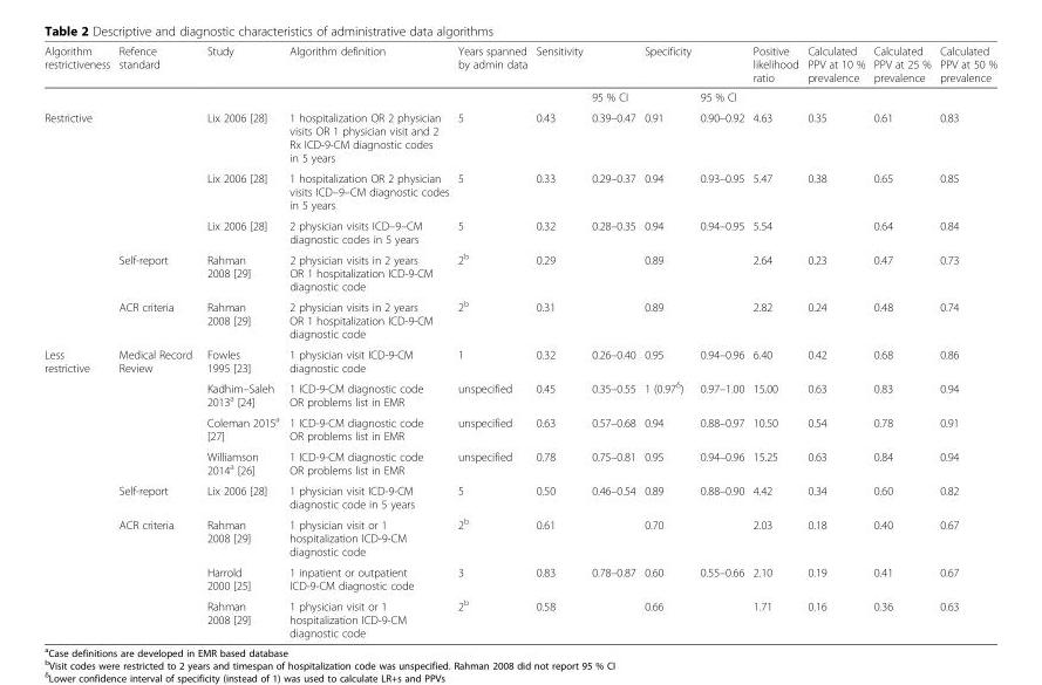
<table><thead><tr><td>Algorithm restrictiveness</td><td>Refence standard</td><td>Study</td><td>Algorithm definition</td><td>Years spanned by admin data</td><td>Sensitivity</td><td></td><td>Specificity</td><td></td><td>Positive likelihood ratio</td><td>Calculated PPV at 10 % prevalence</td><td>Calculated PPV at 25 % prevalence</td><td>Calculated PPV at 50 % prevalence</td></tr></thead><tbody><tr><td></td><td></td><td></td><td></td><td></td><td></td><td>95 % CI</td><td></td><td>95 % CI</td><td></td><td></td><td></td><td></td></tr><tr><td rowspan="5">Restrictive</td><td></td><td>Lix 2006 [28]</td><td>1 hospitalization OR 2 physician visits OR 1 physician visit and 2 Rx ICD-9-CM diagnostic codes in 5 years</td><td>5</td><td>0.43</td><td>0.39–0.47</td><td>0.91</td><td>0.90–0.92</td><td>4.63</td><td>0.35</td><td>0.61</td><td>0.83</td></tr><tr><td></td><td>Lix 2006 [28]</td><td>1 hospitalization OR 2 physician visits ICD–9–CM diagnostic codes in 5 years</td><td>5</td><td>0.33</td><td>0.29–0.37</td><td>0.94</td><td>0.93–0.95</td><td>5.47</td><td>0.38</td><td>0.65</td><td>0.85</td></tr><tr><td></td><td>Lix 2006 [28]</td><td>2 physician visits ICD–9–CM diagnostic codes in 5 years</td><td>5</td><td>0.32</td><td>0.28–0.35</td><td>0.94</td><td>0.94–0.95</td><td>5.54</td><td></td><td>0.64</td><td>0.84</td></tr><tr><td>Self-report</td><td>Rahman 2008 [29]</td><td>2 physician visits in 2 years OR 1 hospitalization ICD-9-CM diagnostic code</td><td>2<sup>b</sup></td><td>0.29</td><td></td><td>0.89</td><td></td><td>2.64</td><td>0.23</td><td>0.47</td><td>0.73</td></tr><tr><td>ACR criteria</td><td>Rahman 2008 [29]</td><td>2 physician visits in 2 years OR 1 hospitalization ICD-9-CM diagnostic code</td><td>2<sup>b</sup></td><td>0.31</td><td></td><td>0.89</td><td></td><td>2.82</td><td>0.24</td><td>0.48</td><td>0.74</td></tr><tr><td rowspan="8">Less restrictive</td><td rowspan="4">Medical Record Review</td><td>Fowles 1995 [23]</td><td>1 physician visit ICD-9-CM diagnostic code</td><td>1</td><td>0.32</td><td>0.26–0.40</td><td>0.95</td><td>0.94–0.96</td><td>6.40</td><td>0.42</td><td>0.68</td><td>0.86</td></tr><tr><td>Kadhim–Saleh 2013<sup>a</sup> [24]</td><td>1 ICD-9-CM diagnostic code OR problems list in EMR</td><td>unspecified</td><td>0.45</td><td>0.35–0.55</td><td>1 (0.97<sup>δ</sup>)</td><td>0.97–1.00</td><td>15.00</td><td>0.63</td><td>0.83</td><td>0.94</td></tr><tr><td>Coleman 2015<sup>a</sup> [27]</td><td>1 ICD-9-CM diagnostic code OR problems list in EMR</td><td>unspecified</td><td>0.63</td><td>0.57–0.68</td><td>0.94</td><td>0.88–0.97</td><td>10.50</td><td>0.54</td><td>0.78</td><td>0.91</td></tr><tr><td>Williamson 2014<sup>a</sup> [26]</td><td>1 ICD-9-CM diagnostic code OR problems list in EMR</td><td>unspecified</td><td>0.78</td><td>0.75–0.81</td><td>0.95</td><td>0.94–0.96</td><td>15.25</td><td>0.63</td><td>0.84</td><td>0.94</td></tr><tr><td>Self-report</td><td>Lix 2006 [28]</td><td>1 physician visit ICD-9-CM diagnostic code in 5 years</td><td>5</td><td>0.50</td><td>0.46–0.54</td><td>0.89</td><td>0.88–0.90</td><td>4.42</td><td>0.34</td><td>0.60</td><td>0.82</td></tr><tr><td rowspan="3">ACR criteria</td><td>Rahman 2008 [29]</td><td>1 physician visit or 1 hospitalization ICD-9-CM diagnostic code</td><td>2<sup>b</sup></td><td>0.61</td><td></td><td>0.70</td><td></td><td>2.03</td><td>0.18</td><td>0.40</td><td>0.67</td></tr><tr><td>Harrold 2000 [25]</td><td>1 inpatient or outpatient ICD-9-CM diagnostic code</td><td>3</td><td>0.83</td><td>0.78–0.87</td><td>0.60</td><td>0.55–0.66</td><td>2.10</td><td>0.19</td><td>0.41</td><td>0.67</td></tr><tr><td>Rahman 2008 [29]</td><td>1 physician visit or 1 hospitalization ICD-9-CM diagnostic code</td><td>2<sup>b</sup></td><td>0.58</td><td></td><td>0.66</td><td></td><td>1.71</td><td>0.16</td><td>0.36</td><td>0.63</td></tr></tbody></table>